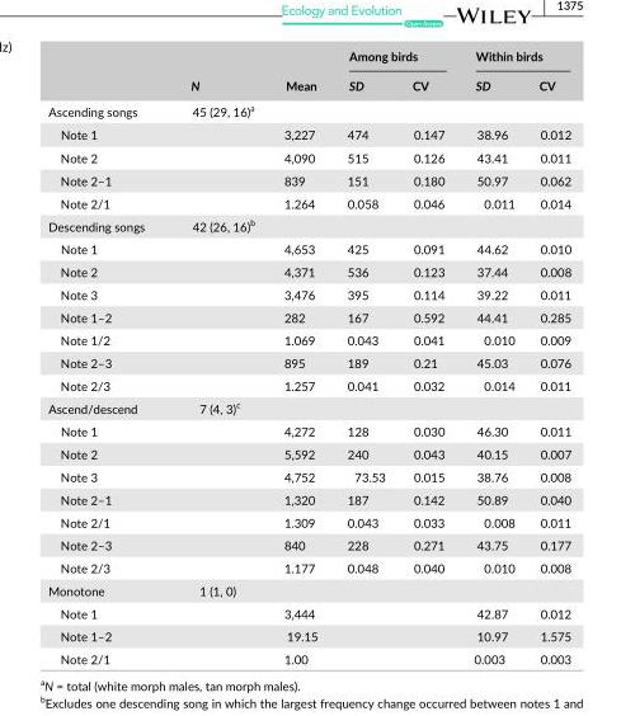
<table><thead><tr><td rowspan="2"></td><td rowspan="2">N</td><td rowspan="2">Mean</td><td colspan="2">Among birds</td><td colspan="2">Within birds</td></tr><tr><td>SD</td><td>CV</td><td>SD</td><td>CV</td></tr></thead><tbody><tr><td>Ascending songs</td><td>45 (29, 16)<sup>a</sup></td><td></td><td></td><td></td><td></td><td></td></tr><tr><td>Note 1</td><td></td><td>3,227</td><td>474</td><td>0.147</td><td>38.96</td><td>0.012</td></tr><tr><td>Note 2</td><td></td><td>4,090</td><td>515</td><td>0.126</td><td>43.41</td><td>0.011</td></tr><tr><td>Note 2–1</td><td></td><td>839</td><td>151</td><td>0.180</td><td>50.97</td><td>0.062</td></tr><tr><td>Note 2/1</td><td></td><td>1.264</td><td>0.058</td><td>0.046</td><td>0.011</td><td>0.014</td></tr><tr><td>Descending songs</td><td>42 (26, 16)<sup>b</sup></td><td></td><td></td><td></td><td></td><td></td></tr><tr><td>Note 1</td><td></td><td>4,653</td><td>425</td><td>0.091</td><td>44.62</td><td>0.010</td></tr><tr><td>Note 2</td><td></td><td>4,371</td><td>536</td><td>0.123</td><td>37.44</td><td>0.008</td></tr><tr><td>Note 3</td><td></td><td>3,476</td><td>395</td><td>0.114</td><td>39.22</td><td>0.011</td></tr><tr><td>Note 1–2</td><td></td><td>282</td><td>167</td><td>0.592</td><td>44.41</td><td>0.285</td></tr><tr><td>Note 1/2</td><td></td><td>1.069</td><td>0.043</td><td>0.041</td><td>0.010</td><td>0.009</td></tr><tr><td>Note 2–3</td><td></td><td>895</td><td>189</td><td>0.21</td><td>45.03</td><td>0.076</td></tr><tr><td>Note 2/3</td><td></td><td>1.257</td><td>0.041</td><td>0.032</td><td>0.014</td><td>0.011</td></tr><tr><td>Ascend/descend</td><td>7 (4, 3)<sup>c</sup></td><td></td><td></td><td></td><td></td><td></td></tr><tr><td>Note 1</td><td></td><td>4,272</td><td>128</td><td>0.030</td><td>46.30</td><td>0.011</td></tr><tr><td>Note 2</td><td></td><td>5,592</td><td>240</td><td>0.043</td><td>40.15</td><td>0.007</td></tr><tr><td>Note 3</td><td></td><td>4,752</td><td>73.53</td><td>0.015</td><td>38.76</td><td>0.008</td></tr><tr><td>Note 2–1</td><td></td><td>1,320</td><td>187</td><td>0.142</td><td>50.89</td><td>0.040</td></tr><tr><td>Note 2/1</td><td></td><td>1.309</td><td>0.043</td><td>0.033</td><td>0.008</td><td>0.011</td></tr><tr><td>Note 2–3</td><td></td><td>840</td><td>228</td><td>0.271</td><td>43.75</td><td>0.177</td></tr><tr><td>Note 2/3</td><td></td><td>1.177</td><td>0.048</td><td>0.040</td><td>0.010</td><td>0.008</td></tr><tr><td>Monotone</td><td>1 (1, 0)</td><td></td><td></td><td></td><td></td><td></td></tr><tr><td>Note 1</td><td></td><td>3,444</td><td></td><td></td><td>42.87</td><td>0.012</td></tr><tr><td>Note 1–2</td><td></td><td>19.15</td><td></td><td></td><td>10.97</td><td>1.575</td></tr><tr><td>Note 2/1</td><td></td><td>1.00</td><td></td><td></td><td>0.003</td><td>0.003</td></tr></tbody></table>